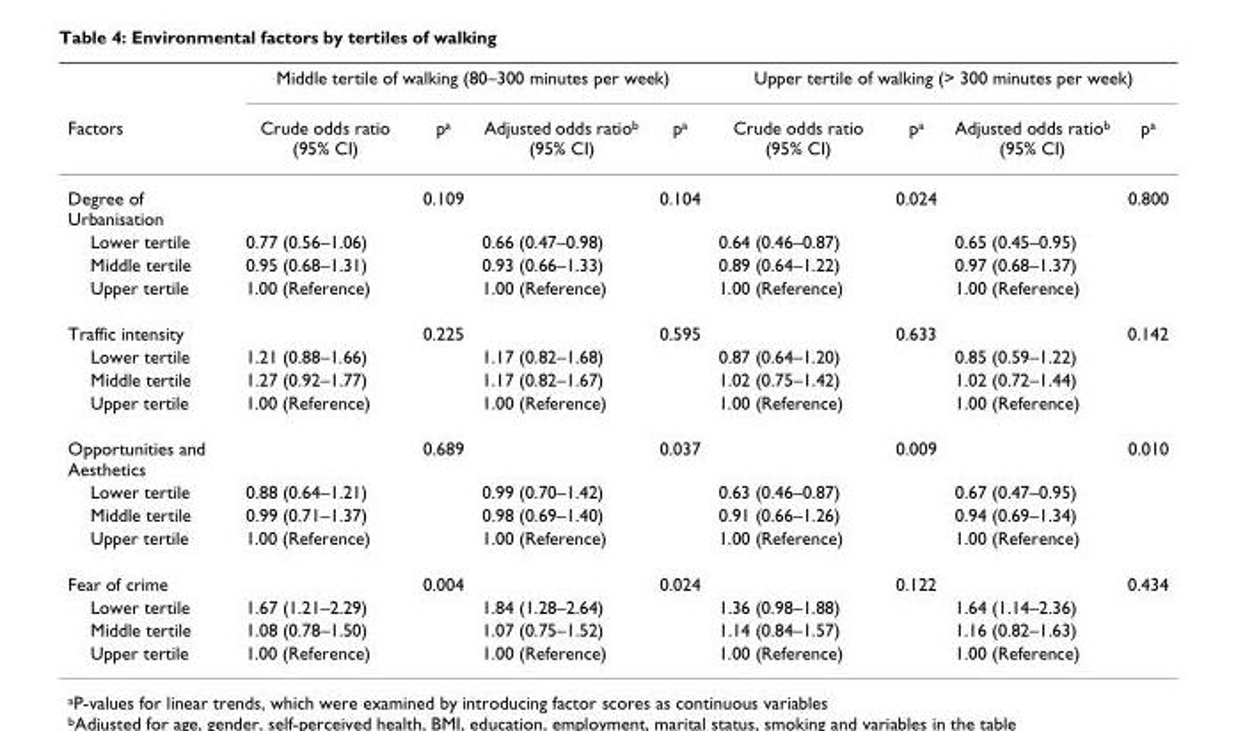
<table><thead><tr><td rowspan="2">Factors</td><td colspan="4">Middle tertile of walking (80–300 minutes per week)</td><td colspan="4">Upper tertile of walking (&gt; 300 minutes per week)</td></tr><tr><td>Crude odds ratio (95% CI)</td><td>p<sup>a</sup></td><td>Adjusted odds ratio<sup>b</sup> (95% CI)</td><td>p<sup>a</sup></td><td>Crude odds ratio (95% CI)</td><td>p<sup>a</sup></td><td>Adjusted odds ratio<sup>b</sup> (95% CI)</td><td>p<sup>a</sup></td></tr></thead><tbody><tr><td>Degree of Urbanisation</td><td></td><td>0.109</td><td></td><td>0.104</td><td></td><td>0.024</td><td></td><td>0.800</td></tr><tr><td>Lower tertile</td><td>0.77 (0.56–1.06)</td><td></td><td>0.66 (0.47–0.98)</td><td></td><td>0.64 (0.46–0.87)</td><td></td><td>0.65 (0.45–0.95)</td><td></td></tr><tr><td>Middle tertile</td><td>0.95 (0.68–1.31)</td><td></td><td>0.93 (0.66–1.33)</td><td></td><td>0.89 (0.64–1.22)</td><td></td><td>0.97 (0.68–1.37)</td><td></td></tr><tr><td>Upper tertile</td><td>1.00 (Reference)</td><td></td><td>1.00 (Reference)</td><td></td><td>1.00 (Reference)</td><td></td><td>1.00 (Reference)</td><td></td></tr><tr><td>Traffic intensity</td><td></td><td>0.225</td><td></td><td>0.595</td><td></td><td>0.633</td><td></td><td>0.142</td></tr><tr><td>Lower tertile</td><td>1.21 (0.88–1.66)</td><td></td><td>1.17 (0.82–1.68)</td><td></td><td>0.87 (0.64–1.20)</td><td></td><td>0.85 (0.59–1.22)</td><td></td></tr><tr><td>Middle tertile</td><td>1.27 (0.92–1.77)</td><td></td><td>1.17 (0.82–1.67)</td><td></td><td>1.02 (0.75–1.42)</td><td></td><td>1.02 (0.72–1.44)</td><td></td></tr><tr><td>Upper tertile</td><td>1.00 (Reference)</td><td></td><td>1.00 (Reference)</td><td></td><td>1.00 (Reference)</td><td></td><td>1.00 (Reference)</td><td></td></tr><tr><td>Opportunities and Aesthetics</td><td></td><td>0.689</td><td></td><td>0.037</td><td></td><td>0.009</td><td></td><td>0.010</td></tr><tr><td>Lower tertile</td><td>0.88 (0.64–1.21)</td><td></td><td>0.99 (0.70–1.42)</td><td></td><td>0.63 (0.46–0.87)</td><td></td><td>0.67 (0.47–0.95)</td><td></td></tr><tr><td>Middle tertile</td><td>0.99 (0.71–1.37)</td><td></td><td>0.98 (0.69–1.40)</td><td></td><td>0.91 (0.66–1.26)</td><td></td><td>0.94 (0.69–1.34)</td><td></td></tr><tr><td>Upper tertile</td><td>1.00 (Reference)</td><td></td><td>1.00 (Reference)</td><td></td><td>1.00 (Reference)</td><td></td><td>1.00 (Reference)</td><td></td></tr><tr><td>Fear of crime</td><td></td><td>0.004</td><td></td><td>0.024</td><td></td><td>0.122</td><td></td><td>0.434</td></tr><tr><td>Lower tertile</td><td>1.67 (1.21–2.29)</td><td></td><td>1.84 (1.28–2.64)</td><td></td><td>1.36 (0.98–1.88)</td><td></td><td>1.64 (1.14–2.36)</td><td></td></tr><tr><td>Middle tertile</td><td>1.08 (0.78–1.50)</td><td></td><td>1.07 (0.75–1.52)</td><td></td><td>1.14 (0.84–1.57)</td><td></td><td>1.16 (0.82–1.63)</td><td></td></tr><tr><td>Upper tertile</td><td>1.00 (Reference)</td><td></td><td>1.00 (Reference)</td><td></td><td>1.00 (Reference)</td><td></td><td>1.00 (Reference)</td><td></td></tr></tbody></table>